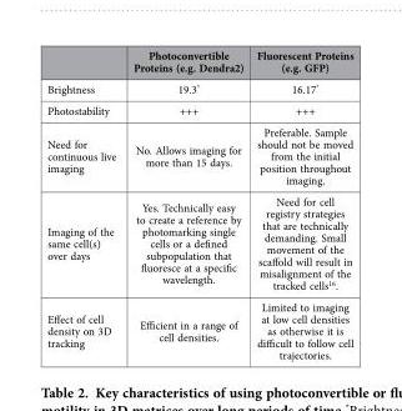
<table><thead><tr><td></td><td>Photoconvertible Proteins (e.g. Dendra2)</td><td>Fluorescent Proteins (e.g. GFP)</td></tr></thead><tbody><tr><td>Brightness</td><td>19.3*</td><td>16.17*</td></tr><tr><td>Photostability</td><td>+++</td><td>+++</td></tr><tr><td>Need for continuous live imaging</td><td>No. Allows imaging for more than 15 days.</td><td>Preferable. Sample should not be moved from the initial position throughout imaging.</td></tr><tr><td>Imaging of the same cell(s) over days</td><td>Yes. Technically easy to create a reference by photomarking single cells or a defined subpopulation that fluoresce at a specific wavelength.</td><td>Need for cell registry strategies that are technically demanding. Small movement of the scaffold will result in misalignment of the tracked cells16.</td></tr><tr><td>Effect of cell density on 3D tracking</td><td>Efficient in a range of cell densities.</td><td>Limited to imaging at low cell densities as otherwise it is difficult to follow cell trajectories.</td></tr></tbody></table>